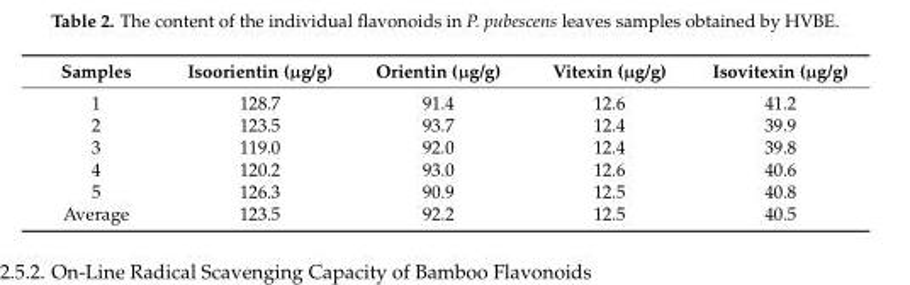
<table><thead><tr><td>Samples</td><td>Isoorientin (µg/g)</td><td>Orientin (µg/g)</td><td>Vitexin (µg/g)</td><td>Isovitexin (µg/g)</td></tr></thead><tbody><tr><td>1</td><td>128.7</td><td>91.4</td><td>12.6</td><td>41.2</td></tr><tr><td>2</td><td>123.5</td><td>93.7</td><td>12.4</td><td>39.9</td></tr><tr><td>3</td><td>119.0</td><td>92.0</td><td>12.4</td><td>39.8</td></tr><tr><td>4</td><td>120.2</td><td>93.0</td><td>12.6</td><td>40.6</td></tr><tr><td>5</td><td>126.3</td><td>90.9</td><td>12.5</td><td>40.8</td></tr><tr><td>Average</td><td>123.5</td><td>92.2</td><td>12.5</td><td>40.5</td></tr></tbody></table>